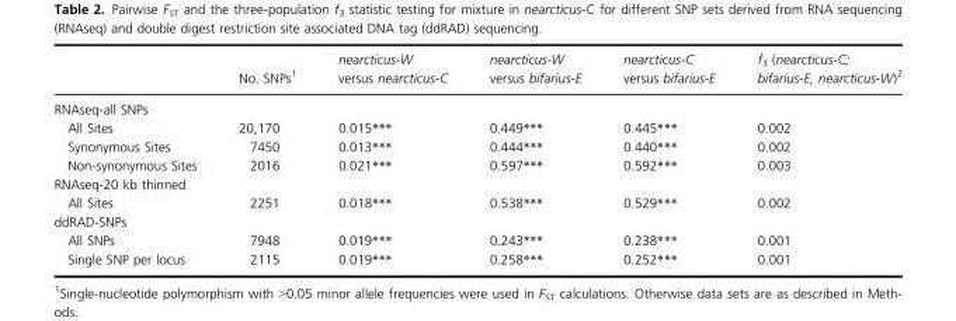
<table><thead><tr><td></td><td>No. SNPs<sup>1</sup></td><td>nearcticus-W versus nearcticus-C</td><td>nearcticus-W versus bifarius-E</td><td>nearcticus-C versus bifarius-E</td><td>f<sub>3</sub> (nearcticus-C; bifarius-E, nearcticus-W)<sup>2</sup></td></tr></thead><tbody><tr><td colspan="6">RNAseq-all SNPs</td></tr><tr><td>All Sites</td><td>20,170</td><td>0.015***</td><td>0.449***</td><td>0.445***</td><td>0.002</td></tr><tr><td>Synonymous Sites</td><td>7450</td><td>0.013***</td><td>0.444***</td><td>0.440***</td><td>0.002</td></tr><tr><td>Non-synonymous Sites</td><td>2016</td><td>0.021***</td><td>0.597***</td><td>0.592***</td><td>0.003</td></tr><tr><td colspan="6">RNAseq-20 kb thinned</td></tr><tr><td>All Sites</td><td>2251</td><td>0.018***</td><td>0.538***</td><td>0.529***</td><td>0.002</td></tr><tr><td colspan="6">ddRAD-SNPs</td></tr><tr><td>All SNPs</td><td>7948</td><td>0.019***</td><td>0.243***</td><td>0.238***</td><td>0.001</td></tr><tr><td>Single SNP per locus</td><td>2115</td><td>0.019***</td><td>0.258***</td><td>0.252***</td><td>0.001</td></tr></tbody></table>